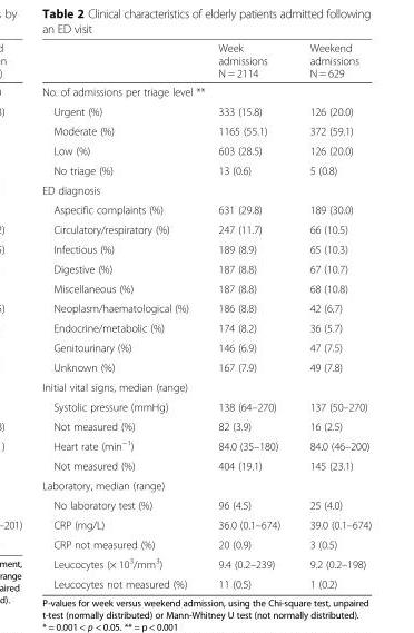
<table><thead><tr><td></td><td>Week admissions N = 2114</td><td>Weekend admissions N = 629</td></tr></thead><tbody><tr><td colspan="3">No. of admissions per triage level **</td></tr><tr><td>Urgent (%)</td><td>333 (15.8)</td><td>126 (20.0)</td></tr><tr><td>Moderate (%)</td><td>1165 (55.1)</td><td>372 (59.1)</td></tr><tr><td>Low (%)</td><td>603 (28.5)</td><td>126 (20.0)</td></tr><tr><td>No triage (%)</td><td>13 (0.6)</td><td>5 (0.8)</td></tr><tr><td colspan="3">ED diagnosis</td></tr><tr><td>Aspecific complaints (%)</td><td>631 (29.8)</td><td>189 (30.0)</td></tr><tr><td>Circulatory/respiratory (%)</td><td>247 (11.7)</td><td>66 (10.5)</td></tr><tr><td>Infectious (%)</td><td>189 (8.9)</td><td>65 (10.3)</td></tr><tr><td>Digestive (%)</td><td>187 (8.8)</td><td>67 (10.7)</td></tr><tr><td>Miscellaneous (%)</td><td>187 (8.8)</td><td>68 (10.8)</td></tr><tr><td>Neoplasm/haematological (%)</td><td>186 (8.8)</td><td>42 (6.7)</td></tr><tr><td>Endocrine/metabolic (%)</td><td>174 (8.2)</td><td>36 (5.7)</td></tr><tr><td>Genitourinary (%)</td><td>146 (6.9)</td><td>47 (7.5)</td></tr><tr><td>Unknown (%)</td><td>167 (7.9)</td><td>49 (7.8)</td></tr><tr><td colspan="3">Initial vital signs, median (range)</td></tr><tr><td>Systolic pressure (mmHg)</td><td>138 (64–270)</td><td>137 (50–270)</td></tr><tr><td>Not measured (%)</td><td>82 (3.9)</td><td>16 (2.5)</td></tr><tr><td>Heart rate (min<sup>−1</sup>)</td><td>84.0 (35–180)</td><td>84.0 (46–200)</td></tr><tr><td>Not measured (%)</td><td>404 (19.1)</td><td>145 (23.1)</td></tr><tr><td colspan="3">Laboratory, median (range)</td></tr><tr><td>No laboratory test (%)</td><td>96 (4.5)</td><td>25 (4.0)</td></tr><tr><td>CRP (mg/L)</td><td>36.0 (0.1–674)</td><td>39.0 (0.1–674)</td></tr><tr><td>CRP not measured (%)</td><td>20 (0.9)</td><td>3 (0.5)</td></tr><tr><td>Leucocytes (× 10<sup>3</sup>/mm<sup>3</sup>)</td><td>9.4 (0.2–239)</td><td>9.2 (0.2–198)</td></tr><tr><td>Leucocytes not measured (%)</td><td>11 (0.5)</td><td>1 (0.2)</td></tr></tbody></table>